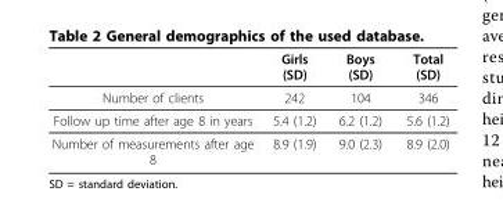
<table><thead><tr><td></td><td>Girls (SD)</td><td>Boys (SD)</td><td>Total (SD)</td></tr></thead><tbody><tr><td>Number of clients</td><td>242</td><td>104</td><td>346</td></tr><tr><td>Follow up time after age 8 in years</td><td>5.4 (1.2)</td><td>6.2 (1.2)</td><td>5.6 (1.2)</td></tr><tr><td>Number of measurements after age 8</td><td>8.9 (1.9)</td><td>9.0 (2.3)</td><td>8.9 (2.0)</td></tr></tbody></table>